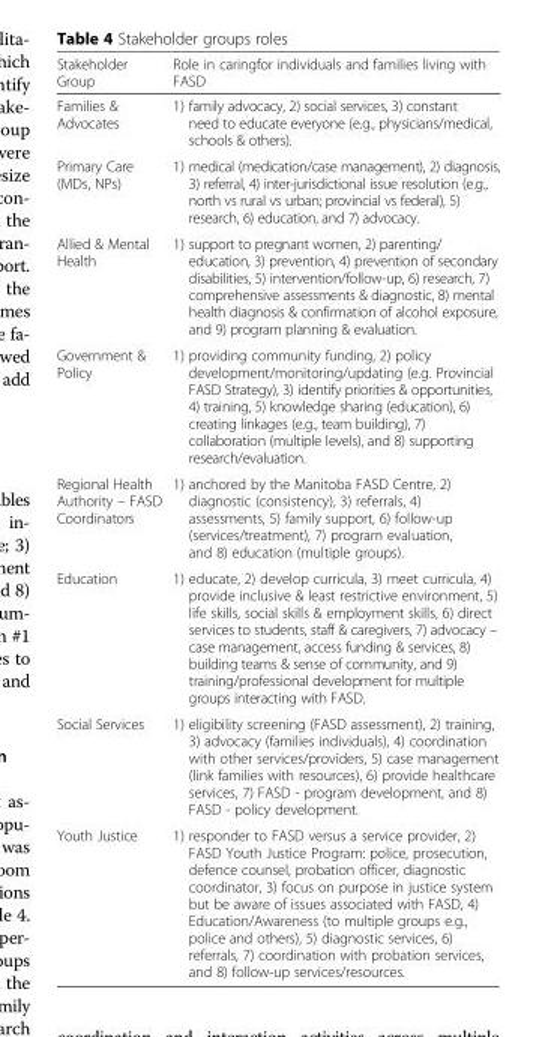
<table><thead><tr><td>Stakeholder Group</td><td>Role in caringfor individuals and families living with FASD</td></tr></thead><tbody><tr><td>Families &amp; Advocates</td><td>1) family advocacy, 2) social services, 3) constant need to educate everyone (e.g., physicians/medical, schools &amp; others).</td></tr><tr><td>Primary Care (MDs, NPs)</td><td>1) medical (medication/case management), 2) diagnosis, 3) referral, 4) inter-jurisdictional issue resolution (e.g., north vs rural vs urban; provincial vs federal), 5) research, 6) education, and 7) advocacy.</td></tr><tr><td>Allied &amp; Mental Health</td><td>1) support to pregnant women, 2) parenting/ education, 3) prevention, 4) prevention of secondary disabilities, 5) intervention/follow-up, 6) research, 7) comprehensive assessments &amp; diagnostic, 8) mental health diagnosis &amp; confirmation of alcohol exposure, and 9) program planning &amp; evaluation.</td></tr><tr><td>Government &amp; Policy</td><td>1) providing community funding, 2) policy development/monitoring/updating (e.g. Provincial FASD Strategy), 3) identify priorities &amp; opportunities, 4) training, 5) knowledge sharing (education), 6) creating linkages (e.g., team building), 7) collaboration (multiple levels), and 8) supporting research/evaluation.</td></tr><tr><td>Regional Health Authority – FASD Coordinators</td><td>1) anchored by the Manitoba FASD Centre, 2) diagnostic (consistency), 3) referrals, 4) assessments, 5) family support, 6) follow-up (services/treatment), 7) program evaluation, and 8) education (multiple groups).</td></tr><tr><td>Education</td><td>1) educate, 2) develop curricula, 3) meet curricula, 4) provide inclusive &amp; least restrictive environment, 5) life skills, social skills &amp; employment skills, 6) direct services to students, staff &amp; caregivers, 7) advocacy – case management, access funding &amp; services, 8) building teams &amp; sense of community, and 9) training/professional development for multiple groups interacting with FASD.</td></tr><tr><td>Social Services</td><td>1) eligibility screening (FASD assessment), 2) training, 3) advocacy (families individuals), 4) coordination with other services/providers, 5) case management (link families with resources), 6) provide healthcare services, 7) FASD - program development, and 8) FASD - policy development.</td></tr><tr><td>Youth Justice</td><td>1) responder to FASD versus a service provider, 2) FASD Youth Justice Program: police, prosecution, defence counsel, probation officer, diagnostic coordinator, 3) focus on purpose in justice system but be aware of issues associated with FASD, 4) Education/Awareness (to multiple groups e.g., police and others), 5) diagnostic services, 6) referrals, 7) coordination with probation services, and 8) follow-up services/resources.</td></tr></tbody></table>